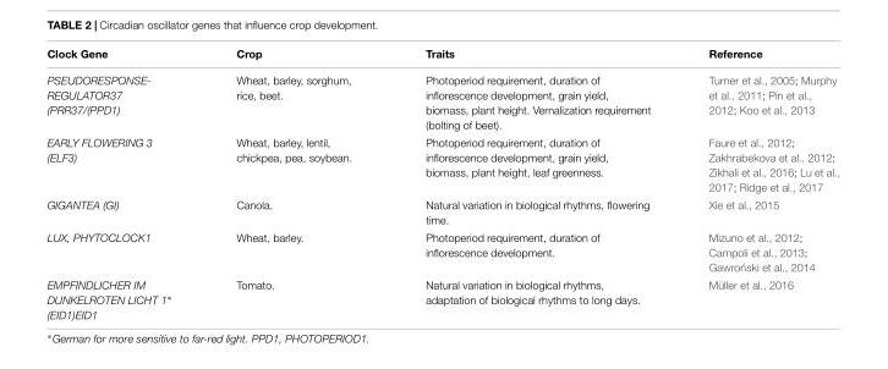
<table><thead><tr><td>Clock Gene</td><td>Crop</td><td>Traits</td><td>Reference</td></tr></thead><tbody><tr><td>PSEUDORESPONSE- REGULATOR37 (PRR37/(PPD1)</td><td>Wheat, barley, sorghum, rice, beet.</td><td>Photoperiod requirement, duration of inflorescence development, grain yield, biomass, plant height. Vernalization requirement (bolting of beet).</td><td>Turner et al., 2005; Murphy et al., 2011; Pin et al., 2012; Koo et al., 2013</td></tr><tr><td>EARLY FLOWERING 3 (ELF3)</td><td>Wheat, barley, lentil, chickpea, pea, soybean.</td><td>Photoperiod requirement, duration of inflorescence development, grain yield, biomass, plant height, leaf greenness.</td><td>Faure et al., 2012; Zakhrabekova et al., 2012; Zikhali et al., 2016; Lu et al., 2017; Ridge et al., 2017</td></tr><tr><td>GIGANTEA (GI)</td><td>Canola.</td><td>Natural variation in biological rhythms, flowering time.</td><td>Xie et al., 2015</td></tr><tr><td>LUX, PHYTOCLOCK1</td><td>Wheat, barley.</td><td>Photoperiod requirement, duration of inflorescence development.</td><td>Mizuno et al., 2012; Campoli et al., 2013; Gawro ´nski et al., 2014</td></tr><tr><td>EMPFINDLICHER IM DUNKELROTEN LICHT 1∗ (EID1)EID1</td><td>Tomato.</td><td>Natural variation in biological rhythms, adaptation of biological rhythms to long days.</td><td>Müller et al., 2016</td></tr></tbody></table>